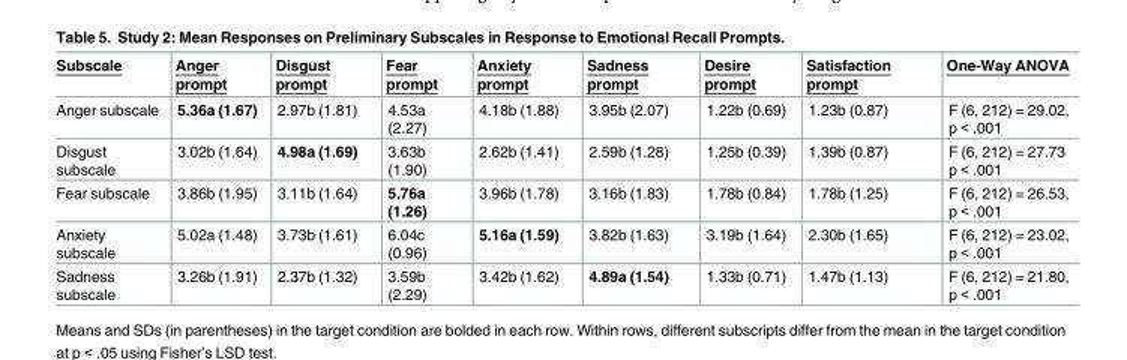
<table><thead><tr><td>Subscale</td><td>Anger prompt</td><td>Disgust prompt</td><td>Fear prompt</td><td>Anxiety prompt</td><td>Sadness prompt</td><td>Desire prompt</td><td>Satisfaction prompt</td><td>One-Way ANOVA</td></tr></thead><tbody><tr><td>Anger subscale</td><td>5.36a (1.67)</td><td>2.97b (1.81)</td><td>4.53a (2.27)</td><td>4.18b (1.88)</td><td>3.95b (2.07)</td><td>1.22b (0.69)</td><td>1.23b (0.87)</td><td>F (6, 212) = 29.02, p &lt; .001</td></tr><tr><td>Disgust subscale</td><td>3.02b (1.64)</td><td>4.98a (1.69)</td><td>3.63b (1.90)</td><td>2.62b (1.41)</td><td>2.59b (1.28)</td><td>1.25b (0.39)</td><td>1.39b (0.87)</td><td>F (6, 212) = 27.73 p &lt; .001</td></tr><tr><td>Fear subscale</td><td>3.86b (1.95)</td><td>3.11b (1.64)</td><td>5.76a (1.26)</td><td>3.96b (1.78)</td><td>3.16b (1.83)</td><td>1.78b (0.84)</td><td>1.78b (1.25)</td><td>F (6, 212) = 26.53, p &lt; .001</td></tr><tr><td>Anxiety subscale</td><td>5.02a (1.48)</td><td>3.73b (1.61)</td><td>6.04c (0.96)</td><td>5.16a (1.59)</td><td>3.82b (1.63)</td><td>3.19b (1.64)</td><td>2.30b (1.65)</td><td>F (6, 212) = 23.02, p &lt; .001</td></tr><tr><td>Sadness subscale</td><td>3.26b (1.91)</td><td>2.37b (1.32)</td><td>3.59b (2.29)</td><td>3.42b (1.62)</td><td>4.89a (1.54)</td><td>1.33b (0.71)</td><td>1.47b (1.13)</td><td>F (6, 212) = 21.80, p &lt; .001</td></tr></tbody></table>